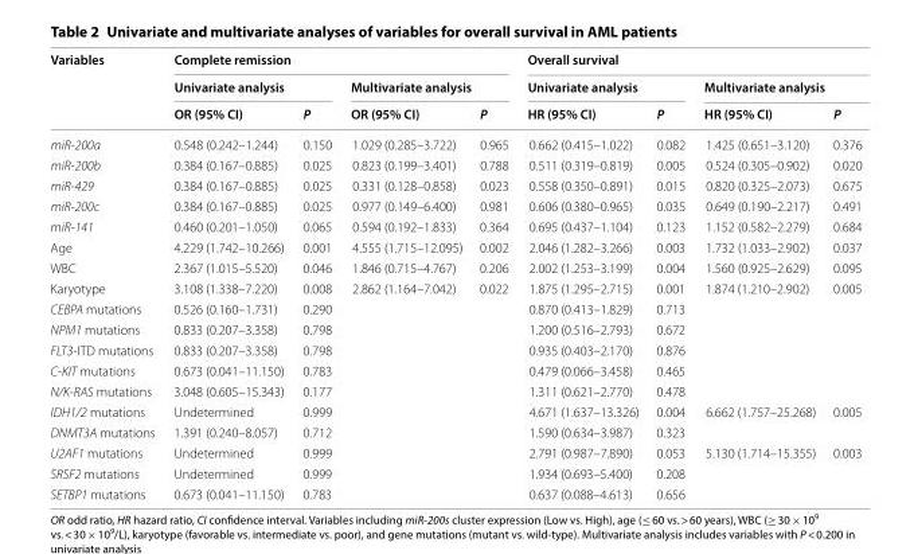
<table><thead><tr><td rowspan="3">Variables</td><td colspan="4">Complete remission</td><td colspan="4">Overall survival</td></tr><tr><td colspan="2">Univariate analysis</td><td colspan="2">Multivariate analysis</td><td colspan="2">Univariate analysis</td><td colspan="2">Multivariate analysis</td></tr><tr><td>OR (95% CI)</td><td>P</td><td>OR (95% CI)</td><td>P</td><td>HR (95% CI)</td><td>P</td><td>HR (95% CI)</td><td>P</td></tr></thead><tbody><tr><td>miR‑200a</td><td>0.548 (0.242–1.244)</td><td>0.150</td><td>1.029 (0.285–3.722)</td><td>0.965</td><td>0.662 (0.415–1.022)</td><td>0.082</td><td>1.425 (0.651–3.120)</td><td>0.376</td></tr><tr><td>miR‑200b</td><td>0.384 (0.167–0.885)</td><td>0.025</td><td>0.823 (0.199–3.401)</td><td>0.788</td><td>0.511 (0.319–0.819)</td><td>0.005</td><td>0.524 (0.305–0.902)</td><td>0.020</td></tr><tr><td>miR‑429</td><td>0.384 (0.167–0.885)</td><td>0.025</td><td>0.331 (0.128–0.858)</td><td>0.023</td><td>0.558 (0.350–0.891)</td><td>0.015</td><td>0.820 (0.325–2.073)</td><td>0.675</td></tr><tr><td>miR‑200c</td><td>0.384 (0.167–0.885)</td><td>0.025</td><td>0.977 (0.149–6.400)</td><td>0.981</td><td>0.606 (0.380–0.965)</td><td>0.035</td><td>0.649 (0.190–2.217)</td><td>0.491</td></tr><tr><td>miR‑141</td><td>0.460 (0.201–1.050)</td><td>0.065</td><td>0.594 (0.192–1.833)</td><td>0.364</td><td>0.695 (0.437–1.104)</td><td>0.123</td><td>1.152 (0.582–2.279)</td><td>0.684</td></tr><tr><td>Age</td><td>4.229 (1.742–10.266)</td><td>0.001</td><td>4.555 (1.715–12.095)</td><td>0.002</td><td>2.046 (1.282–3.266)</td><td>0.003</td><td>1.732 (1.033–2.902)</td><td>0.037</td></tr><tr><td>WBC</td><td>2.367 (1.015–5.520)</td><td>0.046</td><td>1.846 (0.715–4.767)</td><td>0.206</td><td>2.002 (1.253–3.199)</td><td>0.004</td><td>1.560 (0.925–2.629)</td><td>0.095</td></tr><tr><td>Karyotype</td><td>3.108 (1.338–7.220)</td><td>0.008</td><td>2.862 (1.164–7.042)</td><td>0.022</td><td>1.875 (1.295–2.715)</td><td>0.001</td><td>1.874 (1.210–2.902)</td><td>0.005</td></tr><tr><td>CEBPA mutations</td><td>0.526 (0.160–1.731)</td><td>0.290</td><td></td><td></td><td>0.870 (0.413–1.829)</td><td>0.713</td><td></td><td></td></tr><tr><td>NPM1 mutations</td><td>0.833 (0.207–3.358)</td><td>0.798</td><td></td><td></td><td>1.200 (0.516–2.793)</td><td>0.672</td><td></td><td></td></tr><tr><td>FLT3‑ITD mutations</td><td>0.833 (0.207–3.358)</td><td>0.798</td><td></td><td></td><td>0.935 (0.403–2.170)</td><td>0.876</td><td></td><td></td></tr><tr><td>C‑KIT mutations</td><td>0.673 (0.041–11.150)</td><td>0.783</td><td></td><td></td><td>0.479 (0.066–3.458)</td><td>0.465</td><td></td><td></td></tr><tr><td>N/K‑RAS mutations</td><td>3.048 (0.605–15.343)</td><td>0.177</td><td></td><td></td><td>1.311 (0.621–2.770)</td><td>0.478</td><td></td><td></td></tr><tr><td>IDH1/2 mutations</td><td>Undetermined</td><td>0.999</td><td></td><td></td><td>4.671 (1.637–13.326)</td><td>0.004</td><td>6.662 (1.757–25.268)</td><td>0.005</td></tr><tr><td>DNMT3A mutations</td><td>1.391 (0.240–8.057)</td><td>0.712</td><td></td><td></td><td>1.590 (0.634–3.987)</td><td>0.323</td><td></td><td></td></tr><tr><td>U2AF1 mutations</td><td>Undetermined</td><td>0.999</td><td></td><td></td><td>2.791 (0.987–7.890)</td><td>0.053</td><td>5.130 (1.714–15.355)</td><td>0.003</td></tr><tr><td>SRSF2 mutations</td><td>Undetermined</td><td>0.999</td><td></td><td></td><td>1.934 (0.693–5.400)</td><td>0.208</td><td></td><td></td></tr><tr><td>SETBP1 mutations</td><td>0.673 (0.041–11.150)</td><td>0.783</td><td></td><td></td><td>0.637 (0.088–4.613)</td><td>0.656</td><td></td><td></td></tr></tbody></table>